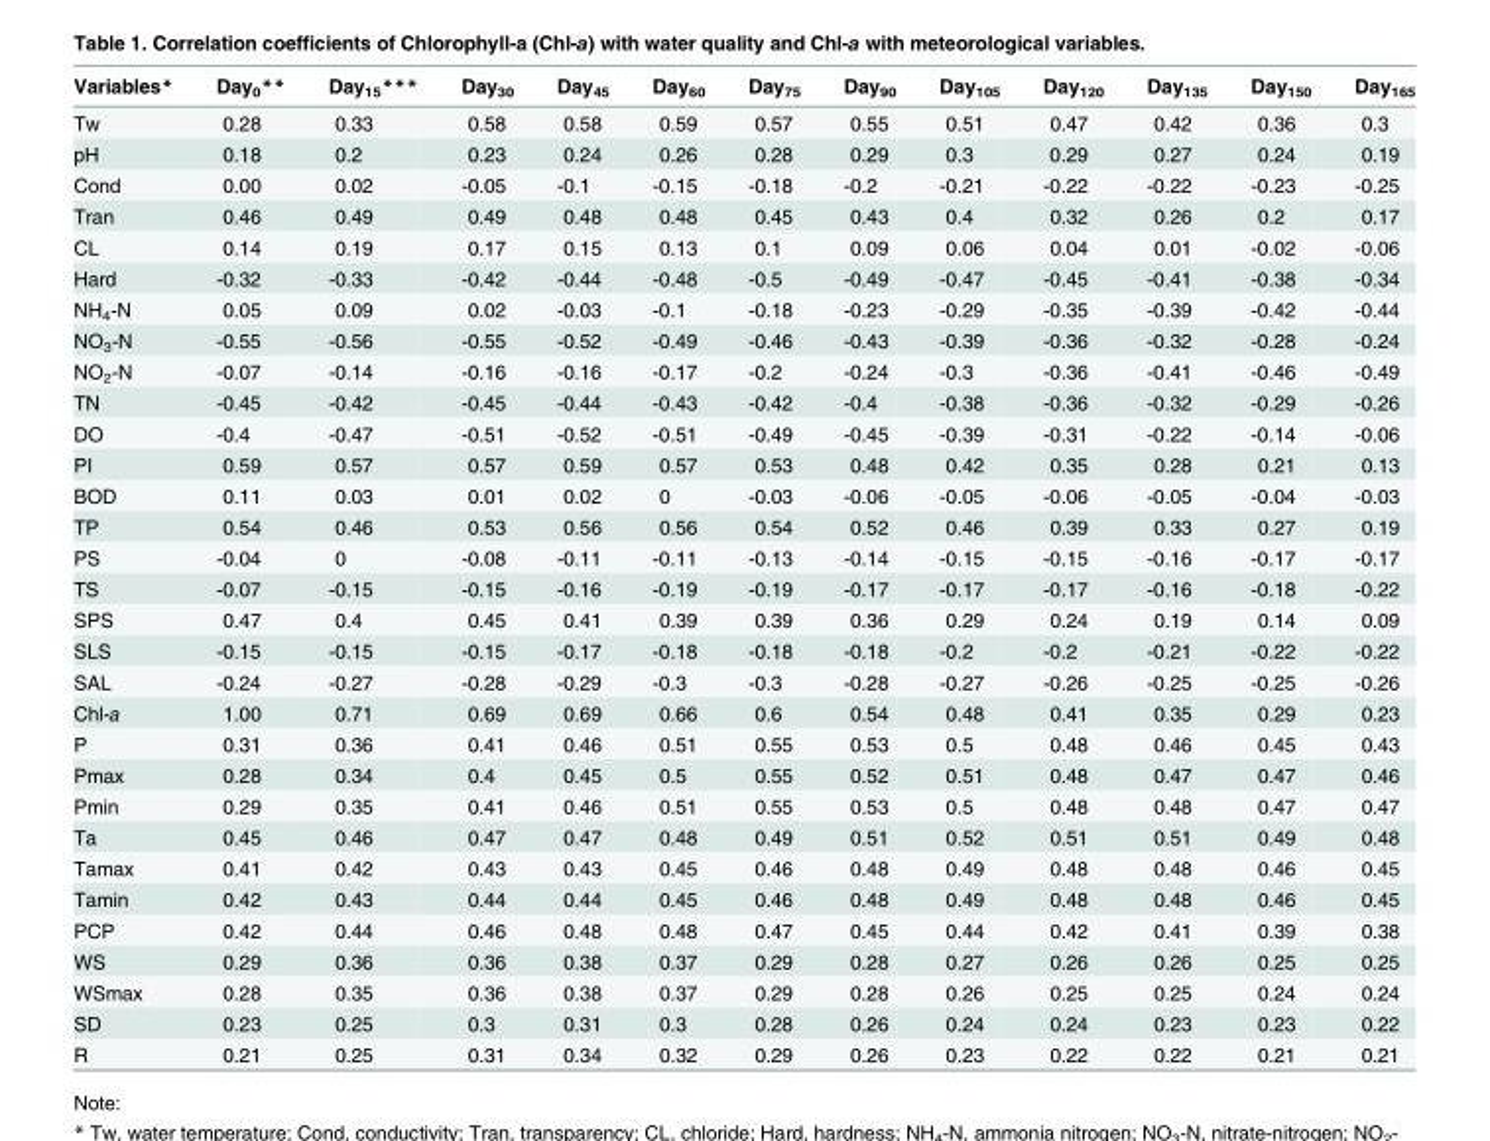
<table><thead><tr><td>Variables*</td><td>Day<sub>0</sub>**</td><td>Day<sub>15</sub>***</td><td>Day<sub>30</sub></td><td>Day<sub>45</sub></td><td>Day<sub>60</sub></td><td>Day<sub>75</sub></td><td>Day<sub>90</sub></td><td>Day<sub>105</sub></td><td>Day<sub>120</sub></td><td>Day<sub>135</sub></td><td>Day<sub>150</sub></td><td>Day<sub>165</sub></td></tr></thead><tbody><tr><td>Tw</td><td>0.28</td><td>0.33</td><td>0.58</td><td>0.58</td><td>0.59</td><td>0.57</td><td>0.55</td><td>0.51</td><td>0.47</td><td>0.42</td><td>0.36</td><td>0.3</td></tr><tr><td>pH</td><td>0.18</td><td>0.2</td><td>0.23</td><td>0.24</td><td>0.26</td><td>0.28</td><td>0.29</td><td>0.3</td><td>0.29</td><td>0.27</td><td>0.24</td><td>0.19</td></tr><tr><td>Cond</td><td>0.00</td><td>0.02</td><td>-0.05</td><td>-0.1</td><td>-0.15</td><td>-0.18</td><td>-0.2</td><td>-0.21</td><td>-0.22</td><td>-0.22</td><td>-0.23</td><td>-0.25</td></tr><tr><td>Tran</td><td>0.46</td><td>0.49</td><td>0.49</td><td>0.48</td><td>0.48</td><td>0.45</td><td>0.43</td><td>0.4</td><td>0.32</td><td>0.26</td><td>0.2</td><td>0.17</td></tr><tr><td>CL</td><td>0.14</td><td>0.19</td><td>0.17</td><td>0.15</td><td>0.13</td><td>0.1</td><td>0.09</td><td>0.06</td><td>0.04</td><td>0.01</td><td>-0.02</td><td>-0.06</td></tr><tr><td>Hard</td><td>-0.32</td><td>-0.33</td><td>-0.42</td><td>-0.44</td><td>-0.48</td><td>-0.5</td><td>-0.49</td><td>-0.47</td><td>-0.45</td><td>-0.41</td><td>-0.38</td><td>-0.34</td></tr><tr><td>NH<sub>4</sub>-N</td><td>0.05</td><td>0.09</td><td>0.02</td><td>-0.03</td><td>-0.1</td><td>-0.18</td><td>-0.23</td><td>-0.29</td><td>-0.35</td><td>-0.39</td><td>-0.42</td><td>-0.44</td></tr><tr><td>NO<sub>3</sub>-N</td><td>-0.55</td><td>-0.56</td><td>-0.55</td><td>-0.52</td><td>-0.49</td><td>-0.46</td><td>-0.43</td><td>-0.39</td><td>-0.36</td><td>-0.32</td><td>-0.28</td><td>-0.24</td></tr><tr><td>NO<sub>2</sub>-N</td><td>-0.07</td><td>-0.14</td><td>-0.16</td><td>-0.16</td><td>-0.17</td><td>-0.2</td><td>-0.24</td><td>-0.3</td><td>-0.36</td><td>-0.41</td><td>-0.46</td><td>-0.49</td></tr><tr><td>TN</td><td>-0.45</td><td>-0.42</td><td>-0.45</td><td>-0.44</td><td>-0.43</td><td>-0.42</td><td>-0.4</td><td>-0.38</td><td>-0.36</td><td>-0.32</td><td>-0.29</td><td>-0.26</td></tr><tr><td>DO</td><td>-0.4</td><td>-0.47</td><td>-0.51</td><td>-0.52</td><td>-0.51</td><td>-0.49</td><td>-0.45</td><td>-0.39</td><td>-0.31</td><td>-0.22</td><td>-0.14</td><td>-0.06</td></tr><tr><td>PI</td><td>0.59</td><td>0.57</td><td>0.57</td><td>0.59</td><td>0.57</td><td>0.53</td><td>0.48</td><td>0.42</td><td>0.35</td><td>0.28</td><td>0.21</td><td>0.13</td></tr><tr><td>BOD</td><td>0.11</td><td>0.03</td><td>0.01</td><td>0.02</td><td>0</td><td>-0.03</td><td>-0.06</td><td>-0.05</td><td>-0.06</td><td>-0.05</td><td>-0.04</td><td>-0.03</td></tr><tr><td>TP</td><td>0.54</td><td>0.46</td><td>0.53</td><td>0.56</td><td>0.56</td><td>0.54</td><td>0.52</td><td>0.46</td><td>0.39</td><td>0.33</td><td>0.27</td><td>0.19</td></tr><tr><td>PS</td><td>-0.04</td><td>0</td><td>-0.08</td><td>-0.11</td><td>-0.11</td><td>-0.13</td><td>-0.14</td><td>-0.15</td><td>-0.15</td><td>-0.16</td><td>-0.17</td><td>-0.17</td></tr><tr><td>TS</td><td>-0.07</td><td>-0.15</td><td>-0.15</td><td>-0.16</td><td>-0.19</td><td>-0.19</td><td>-0.17</td><td>-0.17</td><td>-0.17</td><td>-0.16</td><td>-0.18</td><td>-0.22</td></tr><tr><td>SPS</td><td>0.47</td><td>0.4</td><td>0.45</td><td>0.41</td><td>0.39</td><td>0.39</td><td>0.36</td><td>0.29</td><td>0.24</td><td>0.19</td><td>0.14</td><td>0.09</td></tr><tr><td>SLS</td><td>-0.15</td><td>-0.15</td><td>-0.15</td><td>-0.17</td><td>-0.18</td><td>-0.18</td><td>-0.18</td><td>-0.2</td><td>-0.2</td><td>-0.21</td><td>-0.22</td><td>-0.22</td></tr><tr><td>SAL</td><td>-0.24</td><td>-0.27</td><td>-0.28</td><td>-0.29</td><td>-0.3</td><td>-0.3</td><td>-0.28</td><td>-0.27</td><td>-0.26</td><td>-0.25</td><td>-0.25</td><td>-0.26</td></tr><tr><td>Chl-a</td><td>1.00</td><td>0.71</td><td>0.69</td><td>0.69</td><td>0.66</td><td>0.6</td><td>0.54</td><td>0.48</td><td>0.41</td><td>0.35</td><td>0.29</td><td>0.23</td></tr><tr><td>P</td><td>0.31</td><td>0.36</td><td>0.41</td><td>0.46</td><td>0.51</td><td>0.55</td><td>0.53</td><td>0.5</td><td>0.48</td><td>0.46</td><td>0.45</td><td>0.43</td></tr><tr><td>Pmax</td><td>0.28</td><td>0.34</td><td>0.4</td><td>0.45</td><td>0.5</td><td>0.55</td><td>0.52</td><td>0.51</td><td>0.48</td><td>0.47</td><td>0.47</td><td>0.46</td></tr><tr><td>Pmin</td><td>0.29</td><td>0.35</td><td>0.41</td><td>0.46</td><td>0.51</td><td>0.55</td><td>0.53</td><td>0.5</td><td>0.48</td><td>0.48</td><td>0.47</td><td>0.47</td></tr><tr><td>Ta</td><td>0.45</td><td>0.46</td><td>0.47</td><td>0.47</td><td>0.48</td><td>0.49</td><td>0.51</td><td>0.52</td><td>0.51</td><td>0.51</td><td>0.49</td><td>0.48</td></tr><tr><td>Tamax</td><td>0.41</td><td>0.42</td><td>0.43</td><td>0.43</td><td>0.45</td><td>0.46</td><td>0.48</td><td>0.49</td><td>0.48</td><td>0.48</td><td>0.46</td><td>0.45</td></tr><tr><td>Tamin</td><td>0.42</td><td>0.43</td><td>0.44</td><td>0.44</td><td>0.45</td><td>0.46</td><td>0.48</td><td>0.49</td><td>0.48</td><td>0.48</td><td>0.46</td><td>0.45</td></tr><tr><td>PCP</td><td>0.42</td><td>0.44</td><td>0.46</td><td>0.48</td><td>0.48</td><td>0.47</td><td>0.45</td><td>0.44</td><td>0.42</td><td>0.41</td><td>0.39</td><td>0.38</td></tr><tr><td>WS</td><td>0.29</td><td>0.36</td><td>0.36</td><td>0.38</td><td>0.37</td><td>0.29</td><td>0.28</td><td>0.27</td><td>0.26</td><td>0.26</td><td>0.25</td><td>0.25</td></tr><tr><td>WSmax</td><td>0.28</td><td>0.35</td><td>0.36</td><td>0.38</td><td>0.37</td><td>0.29</td><td>0.28</td><td>0.26</td><td>0.25</td><td>0.25</td><td>0.24</td><td>0.24</td></tr><tr><td>SD</td><td>0.23</td><td>0.25</td><td>0.3</td><td>0.31</td><td>0.3</td><td>0.28</td><td>0.26</td><td>0.24</td><td>0.24</td><td>0.23</td><td>0.23</td><td>0.22</td></tr><tr><td>R</td><td>0.21</td><td>0.25</td><td>0.31</td><td>0.34</td><td>0.32</td><td>0.29</td><td>0.26</td><td>0.23</td><td>0.22</td><td>0.22</td><td>0.21</td><td>0.21</td></tr></tbody></table>